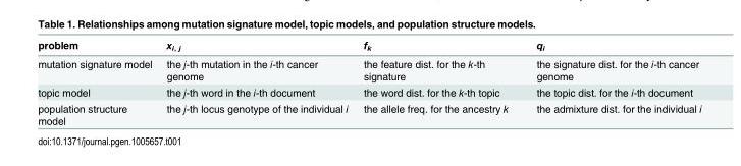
<table><thead><tr><td>problem</td><td>x<sub>i, j</sub></td><td>f<sub>k</sub></td><td>q<sub>i</sub></td></tr></thead><tbody><tr><td>mutation signature model</td><td>the j-th mutation in the i-th cancer genome</td><td>the feature dist. for the k-th signature</td><td>the signature dist. for the i-th cancer genome</td></tr><tr><td>topic model</td><td>the j-th word in the i-th document</td><td>the word dist. for the k-th topic</td><td>the topic dist. for the i-th document</td></tr><tr><td>population structure model</td><td>the j-th locus genotype of the individual i</td><td>the allele freq. for the ancestry k</td><td>the admixture dist. for the individual i</td></tr></tbody></table>